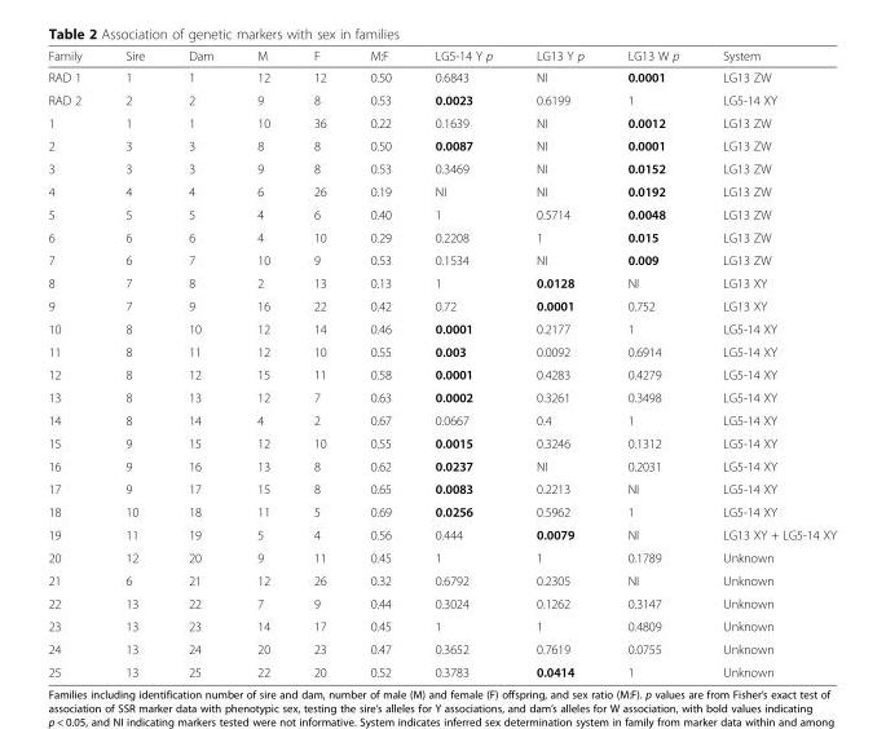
<table><thead><tr><td>Family</td><td>Sire</td><td>Dam</td><td>M</td><td>F</td><td>M:F</td><td>LG5-14 Y p</td><td>LG13 Y p</td><td>LG13 W p</td><td>System</td></tr></thead><tbody><tr><td>RAD 1</td><td>1</td><td>1</td><td>12</td><td>12</td><td>0.50</td><td>0.6843</td><td>NI</td><td>0.0001</td><td>LG13 ZW</td></tr><tr><td>RAD 2</td><td>2</td><td>2</td><td>9</td><td>8</td><td>0.53</td><td>0.0023</td><td>0.6199</td><td>1</td><td>LG5-14 XY</td></tr><tr><td>1</td><td>1</td><td>1</td><td>10</td><td>36</td><td>0.22</td><td>0.1639</td><td>NI</td><td>0.0012</td><td>LG13 ZW</td></tr><tr><td>2</td><td>3</td><td>3</td><td>8</td><td>8</td><td>0.50</td><td>0.0087</td><td>NI</td><td>0.0001</td><td>LG13 ZW</td></tr><tr><td>3</td><td>3</td><td>3</td><td>9</td><td>8</td><td>0.53</td><td>0.3469</td><td>NI</td><td>0.0152</td><td>LG13 ZW</td></tr><tr><td>4</td><td>4</td><td>4</td><td>6</td><td>26</td><td>0.19</td><td>NI</td><td>NI</td><td>0.0192</td><td>LG13 ZW</td></tr><tr><td>5</td><td>5</td><td>5</td><td>4</td><td>6</td><td>0.40</td><td>1</td><td>0.5714</td><td>0.0048</td><td>LG13 ZW</td></tr><tr><td>6</td><td>6</td><td>6</td><td>4</td><td>10</td><td>0.29</td><td>0.2208</td><td>1</td><td>0.015</td><td>LG13 ZW</td></tr><tr><td>7</td><td>6</td><td>7</td><td>10</td><td>9</td><td>0.53</td><td>0.1534</td><td>NI</td><td>0.009</td><td>LG13 ZW</td></tr><tr><td>8</td><td>7</td><td>8</td><td>2</td><td>13</td><td>0.13</td><td>1</td><td>0.0128</td><td>NI</td><td>LG13 XY</td></tr><tr><td>9</td><td>7</td><td>9</td><td>16</td><td>22</td><td>0.42</td><td>0.72</td><td>0.0001</td><td>0.752</td><td>LG13 XY</td></tr><tr><td>10</td><td>8</td><td>10</td><td>12</td><td>14</td><td>0.46</td><td>0.0001</td><td>0.2177</td><td>1</td><td>LG5-14 XY</td></tr><tr><td>11</td><td>8</td><td>11</td><td>12</td><td>10</td><td>0.55</td><td>0.003</td><td>0.0092</td><td>0.6914</td><td>LG5-14 XY</td></tr><tr><td>12</td><td>8</td><td>12</td><td>15</td><td>11</td><td>0.58</td><td>0.0001</td><td>0.4283</td><td>0.4279</td><td>LG5-14 XY</td></tr><tr><td>13</td><td>8</td><td>13</td><td>12</td><td>7</td><td>0.63</td><td>0.0002</td><td>0.3261</td><td>0.3498</td><td>LG5-14 XY</td></tr><tr><td>14</td><td>8</td><td>14</td><td>4</td><td>2</td><td>0.67</td><td>0.0667</td><td>0.4</td><td>1</td><td>LG5-14 XY</td></tr><tr><td>15</td><td>9</td><td>15</td><td>12</td><td>10</td><td>0.55</td><td>0.0015</td><td>0.3246</td><td>0.1312</td><td>LG5-14 XY</td></tr><tr><td>16</td><td>9</td><td>16</td><td>13</td><td>8</td><td>0.62</td><td>0.0237</td><td>NI</td><td>0.2031</td><td>LG5-14 XY</td></tr><tr><td>17</td><td>9</td><td>17</td><td>15</td><td>8</td><td>0.65</td><td>0.0083</td><td>0.2213</td><td>NI</td><td>LG5-14 XY</td></tr><tr><td>18</td><td>10</td><td>18</td><td>11</td><td>5</td><td>0.69</td><td>0.0256</td><td>0.5962</td><td>1</td><td>LG5-14 XY</td></tr><tr><td>19</td><td>11</td><td>19</td><td>5</td><td>4</td><td>0.56</td><td>0.444</td><td>0.0079</td><td>NI</td><td>LG13 XY + LG5-14 XY</td></tr><tr><td>20</td><td>12</td><td>20</td><td>9</td><td>11</td><td>0.45</td><td>1</td><td>1</td><td>0.1789</td><td>Unknown</td></tr><tr><td>21</td><td>6</td><td>21</td><td>12</td><td>26</td><td>0.32</td><td>0.6792</td><td>0.2305</td><td>NI</td><td>Unknown</td></tr><tr><td>22</td><td>13</td><td>22</td><td>7</td><td>9</td><td>0.44</td><td>0.3024</td><td>0.1262</td><td>0.3147</td><td>Unknown</td></tr><tr><td>23</td><td>13</td><td>23</td><td>14</td><td>17</td><td>0.45</td><td>1</td><td>1</td><td>0.4809</td><td>Unknown</td></tr><tr><td>24</td><td>13</td><td>24</td><td>20</td><td>23</td><td>0.47</td><td>0.3652</td><td>0.7619</td><td>0.0755</td><td>Unknown</td></tr><tr><td>25</td><td>13</td><td>25</td><td>22</td><td>20</td><td>0.52</td><td>0.3783</td><td>0.0414</td><td>1</td><td>Unknown</td></tr></tbody></table>